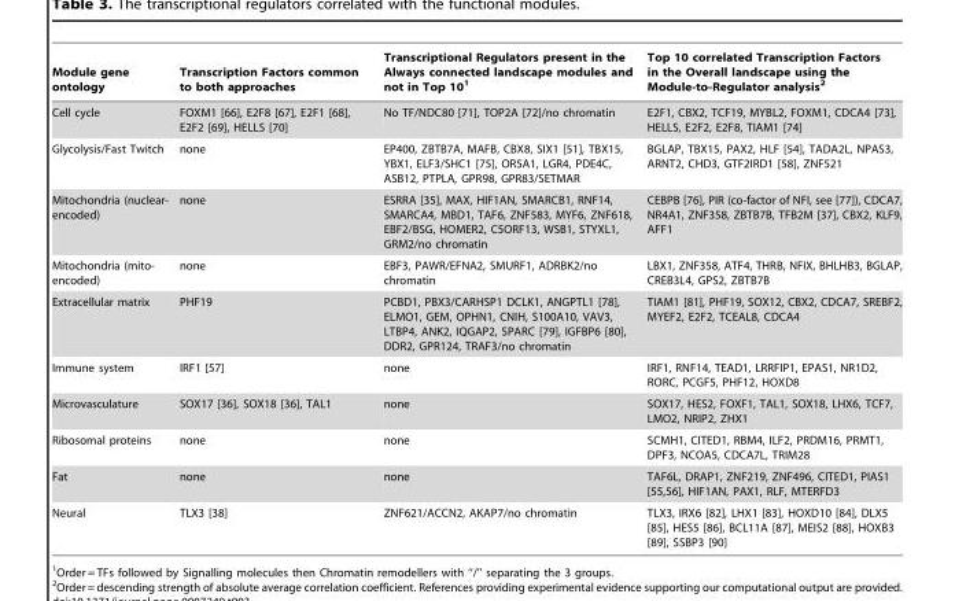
<table><thead><tr><td>Module gene ontology</td><td>Transcription Factors common to both approaches</td><td>Transcriptional Regulators present in the Always connected landscape modules and not in Top 10<sup>1</sup></td><td>Top 10 correlated Transcription Factors in the Overall landscape using the Module-to-Regulator analysis<sup>2</sup></td></tr></thead><tbody><tr><td>Cell cycle</td><td>FOXM1 [66], E2F8 [67], E2F1 [68], E2F2 [69], HELLS [70]</td><td>No TF/NDC80 [71], TOP2A [72]/no chromatin</td><td>E2F1, CBX2, TCF19, MYBL2, FOXM1, CDCA4 [73], HELLS, E2F2, E2F8, TIAM1 [74]</td></tr><tr><td>Glycolysis/Fast Twitch</td><td>none</td><td>EP400, ZBTB7A, MAFB, CBX8, SIX1 [51], TBX15, YBX1, ELF3/SHC1 [75], OR5A1, LGR4, PDE4C, ASB12, PTPLA, GPR98, GPR83/SETMAR</td><td>BGLAP, TBX15, PAX2, HLF [54], TADA2L, NPAS3, ARNT2, CHD3, GTF2IRD1 [58], ZNF521</td></tr><tr><td>Mitochondria (nuclear- encoded)</td><td>none</td><td>ESRRA [35], MAX, HIF1AN, SMARCB1, RNF14, SMARCA4, MBD1, TAF6, ZNF583, MYF6, ZNF618, EBF2/BSG, HOMER2, C5ORF13, WSB1, STYXL1, GRM2/no chromatin</td><td>CEBPB [76], PIR (co-factor of NFI, see [77]), CDCA7, NR4A1, ZNF358, ZBTB7B, TFB2M [37], CBX2, KLF9, AFF1</td></tr><tr><td>Mitochondria (mito- encoded)</td><td>none</td><td>EBF3, PAWR/EFNA2, SMURF1, ADRBK2/no chromatin</td><td>LBX1, ZNF358, ATF4, THRB, NFIX, BHLHB3, BGLAP, CREB3L4, GPS2, ZBTB7B</td></tr><tr><td>Extracellular matrix</td><td>PHF19</td><td>PCBD1, PBX3/CARHSP1 DCLK1, ANGPTL1 [78], ELMO1, GEM, OPHN1, CNIH, S100A10, VAV3, LTBP4, ANK2, IQGAP2, SPARC [79], IGFBP6 [80], DDR2, GPR124, TRAF3/no chromatin</td><td>TIAM1 [81], PHF19, SOX12, CBX2, CDCA7, SREBF2, MYEF2, E2F2, TCEAL8, CDCA4</td></tr><tr><td>Immune system</td><td>IRF1 [57]</td><td>none</td><td>IRF1, RNF14, TEAD1, LRRFIP1, EPAS1, NR1D2, RORC, PCGF5, PHF12, HOXD8</td></tr><tr><td>Microvasculature</td><td>SOX17 [36], SOX18 [36], TAL1</td><td>none</td><td>SOX17, HES2, FOXF1, TAL1, SOX18, LHX6, TCF7, LMO2, NRIP2, ZHX1</td></tr><tr><td>Ribosomal proteins</td><td>none</td><td>none</td><td>SCMH1, CITED1, RBM4, ILF2, PRDM16, PRMT1, DPF3, NCOA5, CDCA7L, TRIM28</td></tr><tr><td>Fat</td><td>none</td><td>none</td><td>TAF6L, DRAP1, ZNF219, ZNF496, CITED1, PIAS1 [55,56], HIF1AN, PAX1, RLF, MTERFD3</td></tr><tr><td>Neural</td><td>TLX3 [38]</td><td>ZNF621/ACCN2, AKAP7/no chromatin</td><td>TLX3, IRX6 [82], LHX1 [83], HOXD10 [84], DLX5 [85], HES5 [86], BCL11A [87], MEIS2 [88], HOXB3 [89], SSBP3 [90]</td></tr></tbody></table>